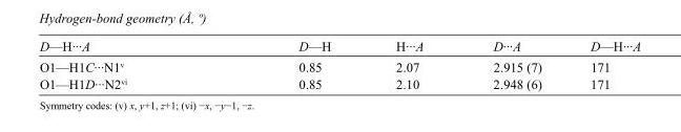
<table><tbody><tr><td>D—H···A</td><td>D—H</td><td>H···A</td><td>D···A</td><td>D—H···A</td></tr><tr><td>O1—H1C···N1<sup>v</sup></td><td>0.85</td><td>2.07</td><td>2.915 (7)</td><td>171</td></tr><tr><td>O1—H1D···N2<sup>vi</sup></td><td>0.85</td><td>2.10</td><td>2.948 (6)</td><td>171</td></tr></tbody></table>